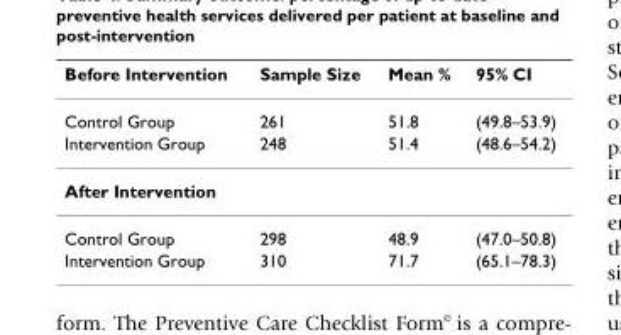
<table><thead><tr><td>Before Intervention</td><td>Sample Size</td><td>Mean %</td><td>95% CI</td></tr></thead><tbody><tr><td>Control Group</td><td>261</td><td>51.8</td><td>(49.8–53.9)</td></tr><tr><td>Intervention Group</td><td>248</td><td>51.4</td><td>(48.6–54.2)</td></tr><tr><td colspan="4">After Intervention</td></tr><tr><td>Control Group</td><td>298</td><td>48.9</td><td>(47.0–50.8)</td></tr><tr><td>Intervention Group</td><td>310</td><td>71.7</td><td>(65.1–78.3)</td></tr></tbody></table>